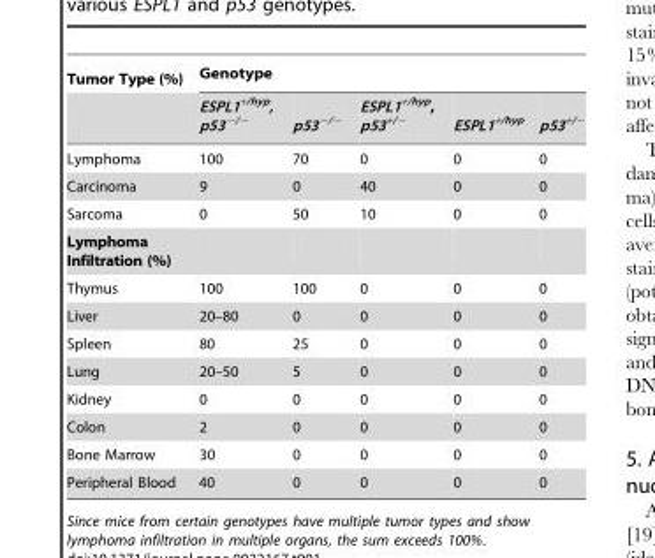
<table><thead><tr><td rowspan="2">Tumor Type (%)</td><td colspan="5">Genotype</td></tr><tr><td>ESPL1<sup>+/hyp</sup>, p53<sup>−/−</sup></td><td>p53<sup>−/−</sup></td><td>ESPL1<sup>+/hyp</sup>, p53<sup>+/−</sup></td><td>ESPL1<sup>+/hyp</sup></td><td>p53<sup>+/−</sup></td></tr></thead><tbody><tr><td>Lymphoma</td><td>100</td><td>70</td><td>0</td><td>0</td><td>0</td></tr><tr><td>Carcinoma</td><td>9</td><td>0</td><td>40</td><td>0</td><td>0</td></tr><tr><td>Sarcoma</td><td>0</td><td>50</td><td>10</td><td>0</td><td>0</td></tr><tr><td colspan="6">Lymphoma Infiltration (%)</td></tr><tr><td>Thymus</td><td>100</td><td>100</td><td>0</td><td>0</td><td>0</td></tr><tr><td>Liver</td><td>20–80</td><td>0</td><td>0</td><td>0</td><td>0</td></tr><tr><td>Spleen</td><td>80</td><td>25</td><td>0</td><td>0</td><td>0</td></tr><tr><td>Lung</td><td>20–50</td><td>5</td><td>0</td><td>0</td><td>0</td></tr><tr><td>Kidney</td><td>0</td><td>0</td><td>0</td><td>0</td><td>0</td></tr><tr><td>Colon</td><td>2</td><td>0</td><td>0</td><td>0</td><td>0</td></tr><tr><td>Bone Marrow</td><td>30</td><td>0</td><td>0</td><td>0</td><td>0</td></tr><tr><td>Peripheral Blood</td><td>40</td><td>0</td><td>0</td><td>0</td><td>0</td></tr></tbody></table>